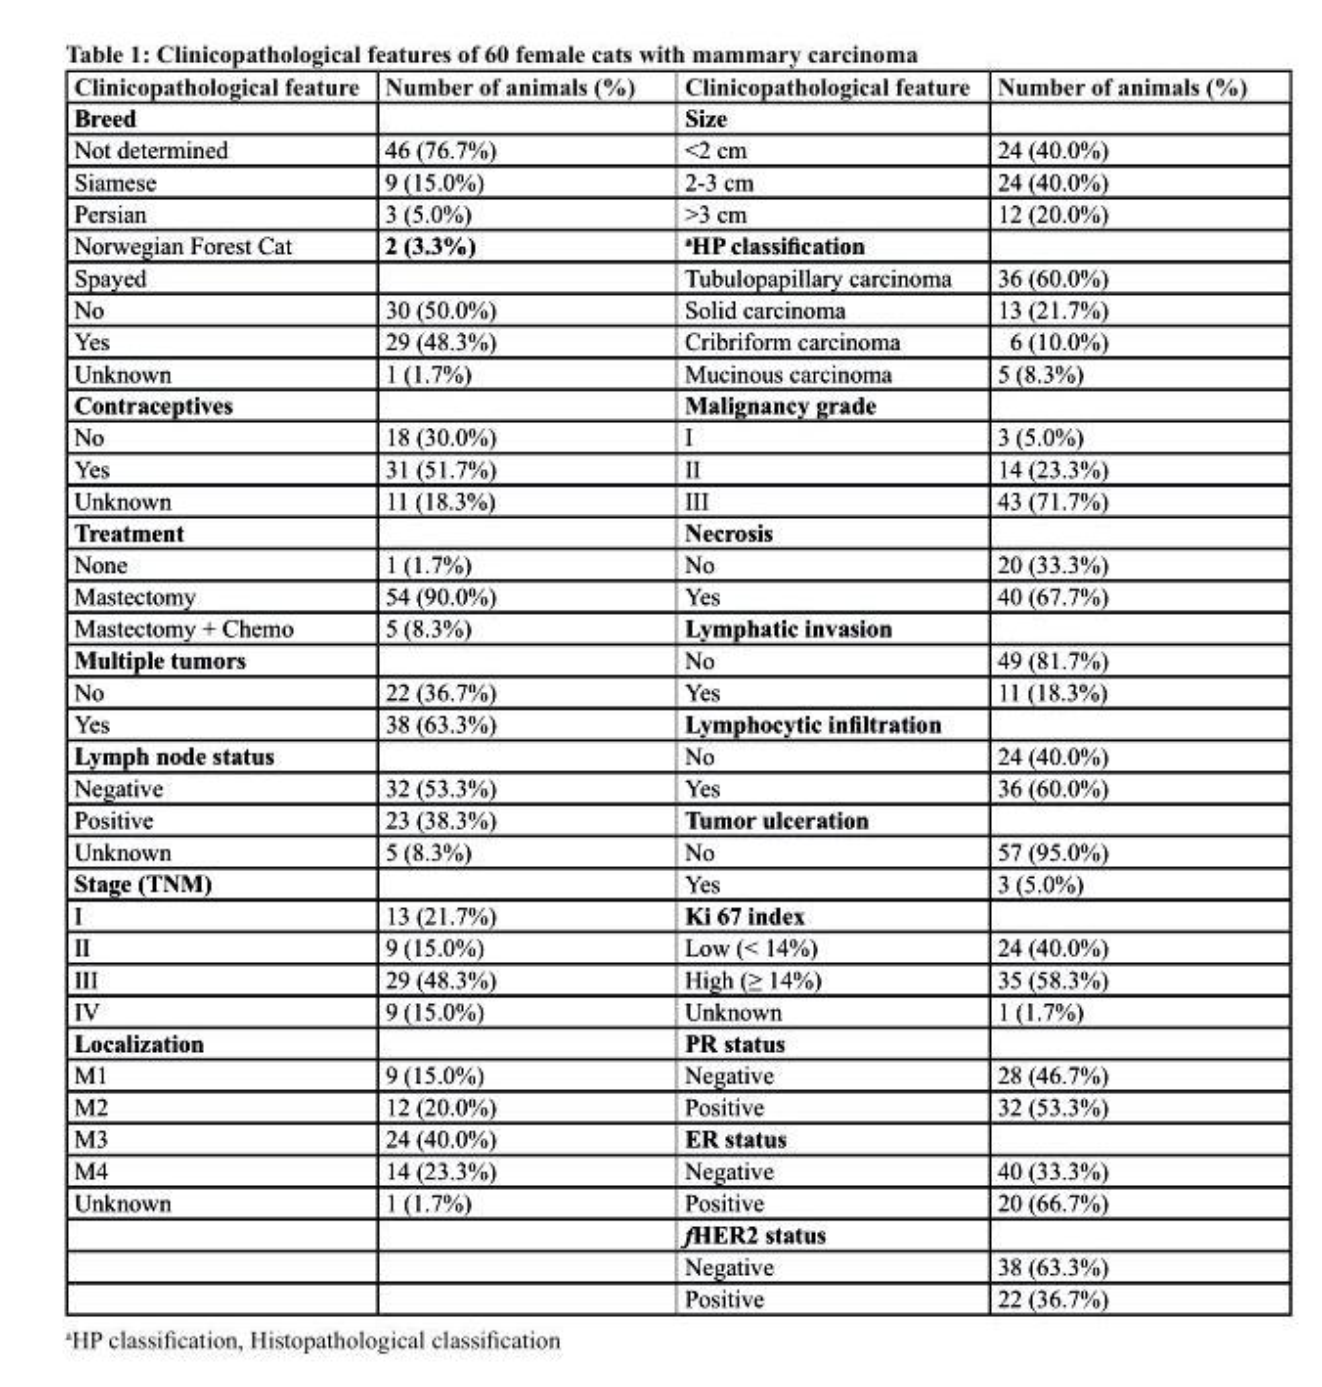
<table><thead><tr><td>clinicopathological feature</td><td>number of animals (%)</td><td>clinicopathological feature</td><td>number of animals (%)</td></tr></thead><tbody><tr><td>breed</td><td></td><td>size</td><td></td></tr><tr><td>Not determined</td><td>46 (76.7%)</td><td>&lt;2 cm</td><td>24 (40.0%)</td></tr><tr><td>Siamese</td><td>9 (15.0%)</td><td>2-3 cm</td><td>24 (40.0%)</td></tr><tr><td>Persian</td><td>3 (5.0%)</td><td>&gt;3 cm</td><td>12 (20.0%)</td></tr><tr><td>Norwegian Forest Cat</td><td>2 (3.3%)</td><td><sup>a</sup>HP classification</td><td></td></tr><tr><td>Spayed</td><td></td><td>Tubulopapillary carcinoma</td><td>36 (60.0%)</td></tr><tr><td>No</td><td>30 (50.0%)</td><td>Solid carcinoma</td><td>13 (21.7%)</td></tr><tr><td>Yes</td><td>29 (48.3%)</td><td>Cribriform carcinoma</td><td>6 (10.0%)</td></tr><tr><td>Unknown</td><td>1 (1.7%)</td><td>Mucinous carcinoma</td><td>5 (8.3%)</td></tr><tr><td>contraceptives</td><td></td><td>Malignancy grade</td><td></td></tr><tr><td>No</td><td>18 (30.0%)</td><td>I</td><td>3 (5.0%)</td></tr><tr><td>Yes</td><td>31 (51.7%)</td><td>II</td><td>14 (23.3%)</td></tr><tr><td>Unknown</td><td>11 (18.3%)</td><td>III</td><td>43 (71.7%)</td></tr><tr><td>treatment</td><td></td><td>necrosis</td><td></td></tr><tr><td>None</td><td>1 (1.7%)</td><td>No</td><td>20 (33.3%)</td></tr><tr><td>Mastectomy</td><td>54 (90.0%)</td><td>Yes</td><td>40 (67.7%)</td></tr><tr><td>Mastectomy + Chemo</td><td>5 (8.3%)</td><td>lymphatic invasion</td><td></td></tr><tr><td>Multiple tumors</td><td></td><td>No</td><td>49 (81.7%)</td></tr><tr><td>No</td><td>22 (36.7%)</td><td>Yes</td><td>11 (18.3%)</td></tr><tr><td>Yes</td><td>38 (63.3%)</td><td>Lymphocytic infiltration</td><td></td></tr><tr><td>lymph node status</td><td></td><td>No</td><td>24 (40.0%)</td></tr><tr><td>Negative</td><td>32 (53.3%)</td><td>Yes</td><td>36 (60.0%)</td></tr><tr><td>Positive</td><td>23 (38.3%)</td><td>tumor ulceration</td><td></td></tr><tr><td>Unknown</td><td>5 (8.3%)</td><td>No</td><td>57 (95.0%)</td></tr><tr><td>stage (tnM)</td><td></td><td>Yes</td><td>3 (5.0%)</td></tr><tr><td>I</td><td>13 (21.7%)</td><td>Ki 67 index</td><td></td></tr><tr><td>II</td><td>9 (15.0%)</td><td>Low (&lt; 14%)</td><td>24 (40.0%)</td></tr><tr><td>III</td><td>29 (48.3%)</td><td>High (≥ 14%)</td><td>35 (58.3%)</td></tr><tr><td>IV</td><td>9 (15.0%)</td><td>Unknown</td><td>1 (1.7%)</td></tr><tr><td>localization</td><td></td><td>Pr status</td><td></td></tr><tr><td>M1</td><td>9 (15.0%)</td><td>Negative</td><td>28 (46.7%)</td></tr><tr><td>M2</td><td>12 (20.0%)</td><td>Positive</td><td>32 (53.3%)</td></tr><tr><td>M3</td><td>24 (40.0%)</td><td>er status</td><td></td></tr><tr><td>M4</td><td>14 (23.3%)</td><td>Negative</td><td>40 (33.3%)</td></tr><tr><td rowspan="4">Unknown</td><td>1 (1.7%)</td><td>Positive</td><td>20 (66.7%)</td></tr><tr><td></td><td>fHer2 status</td><td></td></tr><tr><td></td><td>Negative</td><td>38 (63.3%)</td></tr><tr><td></td><td>Positive</td><td>22 (36.7%)</td></tr></tbody></table>